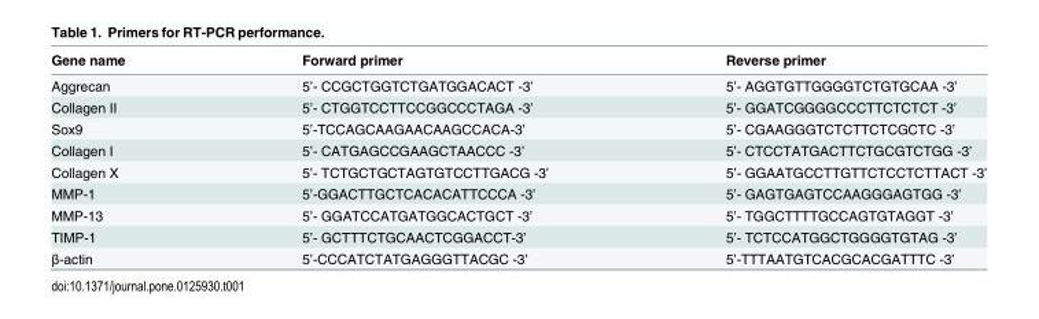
<table><thead><tr><td>Gene name</td><td>Forward primer</td><td>Reverse primer</td></tr></thead><tbody><tr><td>Aggrecan</td><td>5’- CCGCTGGTCTGATGGACACT -3’</td><td>5’- AGGTGTTGGGGTCTGTGCAA -3’</td></tr><tr><td>Collagen II</td><td>5’- CTGGTCCTTCCGGCCCTAGA -3’</td><td>5’- GGATCGGGGCCCTTCTCTCT -3’</td></tr><tr><td>Sox9</td><td>5’-TCCAGCAAGAACAAGCCACA-3’</td><td>5’- CGAAGGGTCTCTTCTCGCTC -3’</td></tr><tr><td>Collagen I</td><td>5’- CATGAGCCGAAGCTAACCC -3’</td><td>5’- CTCCTATGACTTCTGCGTCTGG -3’</td></tr><tr><td>Collagen X</td><td>5’- TCTGCTGCTAGTGTCCTTGACG -3’</td><td>5’- GGAATGCCTTGTTCTCCTCTTACT -3’</td></tr><tr><td>MMP-1</td><td>5’-GGACTTGCTCACACATTCCCA -3’</td><td>5’- GAGTGAGTCCAAGGGAGTGG -3’</td></tr><tr><td>MMP-13</td><td>5’- GGATCCATGATGGCACTGCT -3’</td><td>5’- TGGCTTTTGCCAGTGTAGGT -3’</td></tr><tr><td>TIMP-1</td><td>5’- GCTTTCTGCAACTCGGACCT-3’</td><td>5’- TCTCCATGGCTGGGGTGTAG -3’</td></tr><tr><td>β-actin</td><td>5’-CCCATCTATGAGGGTTACGC -3’</td><td>5’-TTTAATGTCACGCACGATTTC -3’</td></tr></tbody></table>